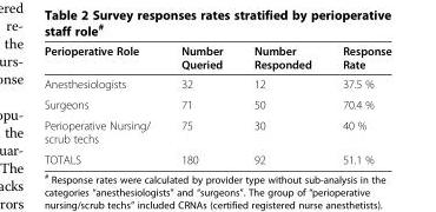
<table><thead><tr><td>Perioperative Role</td><td>Number Queried</td><td>Number Responded</td><td>Response Rate</td></tr></thead><tbody><tr><td>Anesthesiologists</td><td>32</td><td>12</td><td>37.5 %</td></tr><tr><td>Surgeons</td><td>71</td><td>50</td><td>70.4 %</td></tr><tr><td>Perioperative Nursing/ scrub techs</td><td>75</td><td>30</td><td>40 %</td></tr><tr><td>TOTALS</td><td>180</td><td>92</td><td>51.1 %</td></tr></tbody></table>